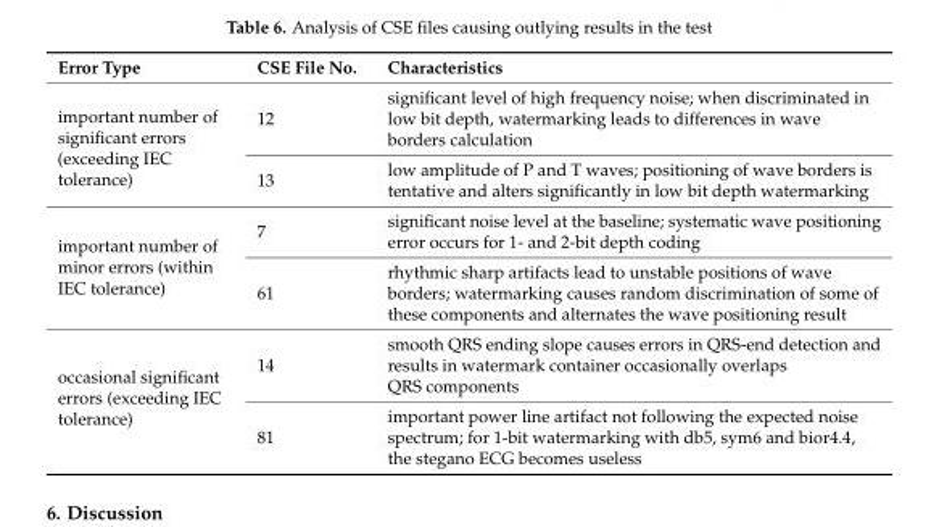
<table><thead><tr><td>Error Type</td><td>CSE File No.</td><td>Characteristics</td></tr></thead><tbody><tr><td rowspan="2">important number of significant errors (exceeding IEC tolerance)</td><td>12</td><td>significant level of high frequency noise; when discriminated in low bit depth, watermarking leads to differences in wave borders calculation</td></tr><tr><td>13</td><td>low amplitude of P and T waves; positioning of wave borders is tentative and alters significantly in low bit depth watermarking</td></tr><tr><td rowspan="2">important number of minor errors (within IEC tolerance)</td><td>7</td><td>significant noise level at the baseline; systematic wave positioning error occurs for 1- and 2-bit depth coding</td></tr><tr><td>61</td><td>rhythmic sharp artifacts lead to unstable positions of wave borders; watermarking causes random discrimination of some of these components and alternates the wave positioning result</td></tr><tr><td rowspan="2">occasional significant errors (exceeding IEC tolerance)</td><td>14</td><td>smooth QRS ending slope causes errors in QRS-end detection and results in watermark container occasionally overlaps QRS components</td></tr><tr><td>81</td><td>important power line artifact not following the expected noise spectrum; for 1-bit watermarking with db5, sym6 and bior4.4, the stegano ECG becomes useless</td></tr></tbody></table>